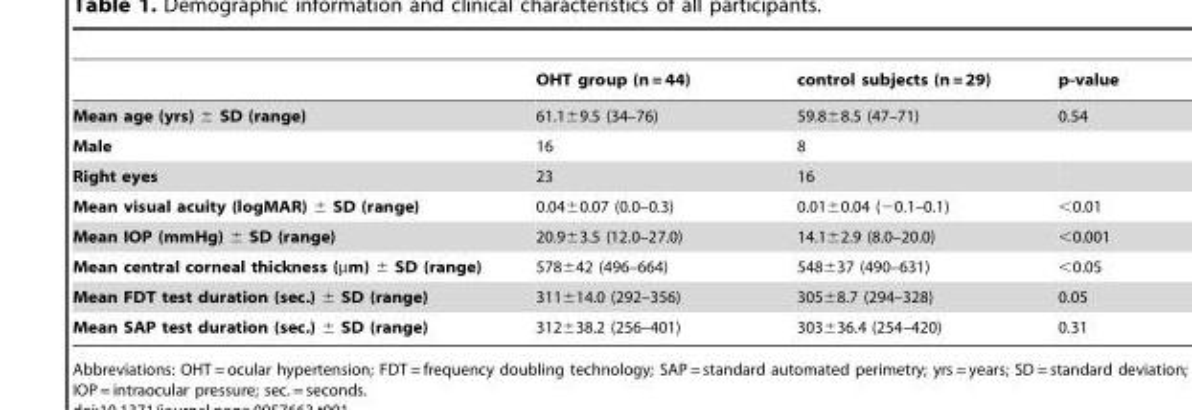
<table><thead><tr><td></td><td>OHT group (n = 44)</td><td>control subjects (n = 29)</td><td>p-value</td></tr></thead><tbody><tr><td>Mean age (yrs) ± SD (range)</td><td>61.1±9.5 (34–76)</td><td>59.8±8.5 (47–71)</td><td>0.54</td></tr><tr><td>Male</td><td>16</td><td>8</td><td></td></tr><tr><td>Right eyes</td><td>23</td><td>16</td><td></td></tr><tr><td>Mean visual acuity (logMAR) ± SD (range)</td><td>0.04±0.07 (0.0–0.3)</td><td>0.01±0.04 (−0.1–0.1)</td><td>&lt;0.01</td></tr><tr><td>Mean IOP (mmHg) ± SD (range)</td><td>20.9±3.5 (12.0–27.0)</td><td>14.1±2.9 (8.0–20.0)</td><td>&lt;0.001</td></tr><tr><td>Mean central corneal thickness (µm) ± SD (range)</td><td>578±42 (496–664)</td><td>548±37 (490–631)</td><td>&lt;0.05</td></tr><tr><td>Mean FDT test duration (sec.) ± SD (range)</td><td>311±14.0 (292–356)</td><td>305±8.7 (294–328)</td><td>0.05</td></tr><tr><td>Mean SAP test duration (sec.) ± SD (range)</td><td>312±38.2 (256–401)</td><td>303±36.4 (254–420)</td><td>0.31</td></tr></tbody></table>